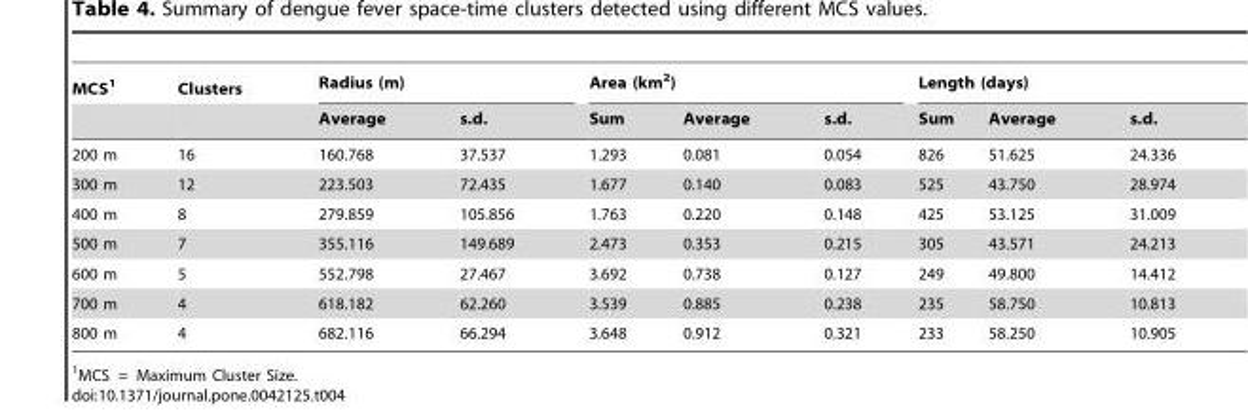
<table><thead><tr><td rowspan="2">MCS<sup>1</sup></td><td rowspan="2">Clusters</td><td colspan="2">Radius (m)</td><td colspan="3">Area (km<sup>2</sup>)</td><td colspan="3">Length (days)</td></tr><tr><td>Average</td><td>s.d.</td><td>Sum</td><td>Average</td><td>s.d.</td><td>Sum</td><td>Average</td><td>s.d.</td></tr></thead><tbody><tr><td>200 m</td><td>16</td><td>160.768</td><td>37.537</td><td>1.293</td><td>0.081</td><td>0.054</td><td>826</td><td>51.625</td><td>24.336</td></tr><tr><td>300 m</td><td>12</td><td>223.503</td><td>72.435</td><td>1.677</td><td>0.140</td><td>0.083</td><td>525</td><td>43.750</td><td>28.974</td></tr><tr><td>400 m</td><td>8</td><td>279.859</td><td>105.856</td><td>1.763</td><td>0.220</td><td>0.148</td><td>425</td><td>53.125</td><td>31.009</td></tr><tr><td>500 m</td><td>7</td><td>355.116</td><td>149.689</td><td>2.473</td><td>0.353</td><td>0.215</td><td>305</td><td>43.571</td><td>24.213</td></tr><tr><td>600 m</td><td>5</td><td>552.798</td><td>27.467</td><td>3.692</td><td>0.738</td><td>0.127</td><td>249</td><td>49.800</td><td>14.412</td></tr><tr><td>700 m</td><td>4</td><td>618.182</td><td>62.260</td><td>3.539</td><td>0.885</td><td>0.238</td><td>235</td><td>58.750</td><td>10.813</td></tr><tr><td>800 m</td><td>4</td><td>682.116</td><td>66.294</td><td>3.648</td><td>0.912</td><td>0.321</td><td>233</td><td>58.250</td><td>10.905</td></tr></tbody></table>